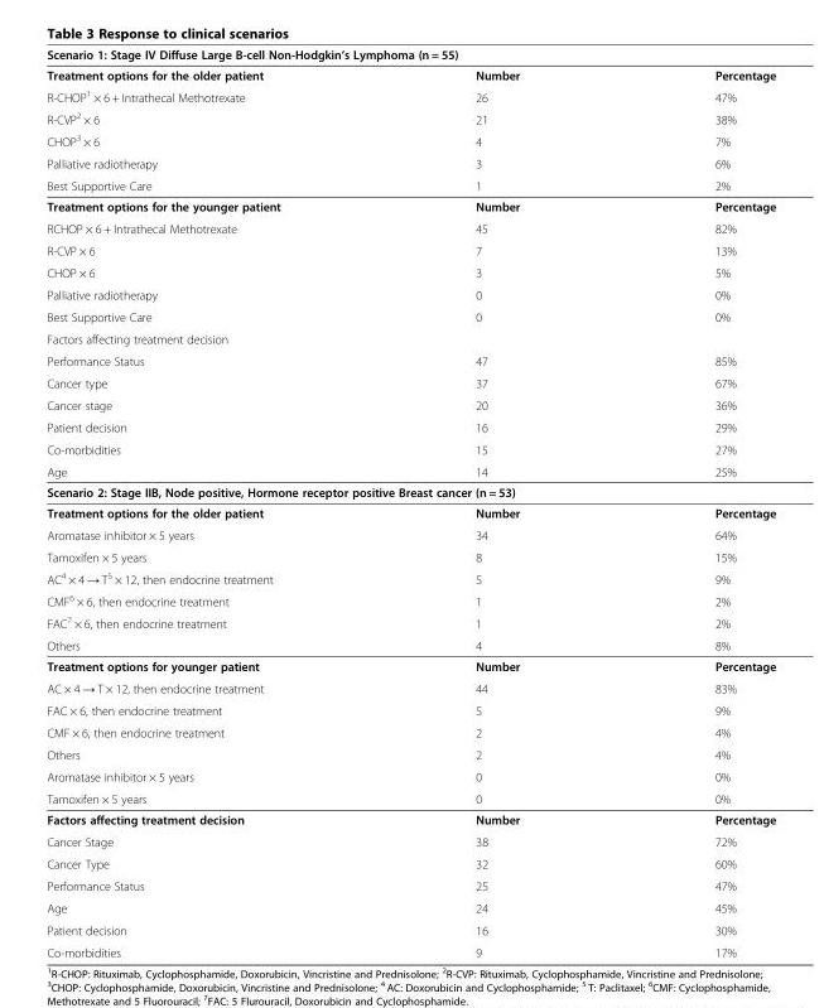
<table><thead><tr><td colspan="3">Scenario 1: Stage IV Diffuse Large B-cell Non-Hodgkin’s Lymphoma (n = 55)</td></tr><tr><td>Treatment options for the older patient</td><td>Number</td><td>Percentage</td></tr></thead><tbody><tr><td>R-CHOP<sup>1</sup> × 6 + Intrathecal Methotrexate</td><td>26</td><td>47%</td></tr><tr><td>R-CVP<sup>2</sup> × 6</td><td>21</td><td>38%</td></tr><tr><td>CHOP<sup>3</sup> × 6</td><td>4</td><td>7%</td></tr><tr><td>Palliative radiotherapy</td><td>3</td><td>6%</td></tr><tr><td>Best Supportive Care</td><td>1</td><td>2%</td></tr><tr><td>Treatment options for the younger patient</td><td>Number</td><td>Percentage</td></tr><tr><td>RCHOP × 6 + Intrathecal Methotrexate</td><td>45</td><td>82%</td></tr><tr><td>R-CVP × 6</td><td>7</td><td>13%</td></tr><tr><td>CHOP × 6</td><td>3</td><td>5%</td></tr><tr><td>Palliative radiotherapy</td><td>0</td><td>0%</td></tr><tr><td>Best Supportive Care</td><td>0</td><td>0%</td></tr><tr><td colspan="3">Factors affecting treatment decision</td></tr><tr><td>Performance Status</td><td>47</td><td>85%</td></tr><tr><td>Cancer type</td><td>37</td><td>67%</td></tr><tr><td>Cancer stage</td><td>20</td><td>36%</td></tr><tr><td>Patient decision</td><td>16</td><td>29%</td></tr><tr><td>Co-morbidities</td><td>15</td><td>27%</td></tr><tr><td>Age</td><td>14</td><td>25%</td></tr><tr><td colspan="3">Scenario 2: Stage IIB, Node positive, Hormone receptor positive Breast cancer (n = 53)</td></tr><tr><td>Treatment options for the older patient</td><td>Number</td><td>Percentage</td></tr><tr><td>Aromatase inhibitor × 5 years</td><td>34</td><td>64%</td></tr><tr><td>Tamoxifen × 5 years</td><td>8</td><td>15%</td></tr><tr><td>AC<sup>4</sup> × 4 → T<sup>5</sup> × 12, then endocrine treatment</td><td>5</td><td>9%</td></tr><tr><td>CMF<sup>6</sup> × 6, then endocrine treatment</td><td>1</td><td>2%</td></tr><tr><td>FAC<sup>7</sup> × 6, then endocrine treatment</td><td>1</td><td>2%</td></tr><tr><td>Others</td><td>4</td><td>8%</td></tr><tr><td>Treatment options for younger patient</td><td>Number</td><td>Percentage</td></tr><tr><td>AC × 4 → T × 12, then endocrine treatment</td><td>44</td><td>83%</td></tr><tr><td>FAC × 6, then endocrine treatment</td><td>5</td><td>9%</td></tr><tr><td>CMF × 6, then endocrine treatment</td><td>2</td><td>4%</td></tr><tr><td>Others</td><td>2</td><td>4%</td></tr><tr><td>Aromatase inhibitor × 5 years</td><td>0</td><td>0%</td></tr><tr><td>Tamoxifen × 5 years</td><td>0</td><td>0%</td></tr><tr><td>Factors affecting treatment decision</td><td>Number</td><td>Percentage</td></tr><tr><td>Cancer Stage</td><td>38</td><td>72%</td></tr><tr><td>Cancer Type</td><td>32</td><td>60%</td></tr><tr><td>Performance Status</td><td>25</td><td>47%</td></tr><tr><td>Age</td><td>24</td><td>45%</td></tr><tr><td>Patient decision</td><td>16</td><td>30%</td></tr><tr><td>Co-morbidities</td><td>9</td><td>17%</td></tr></tbody></table>